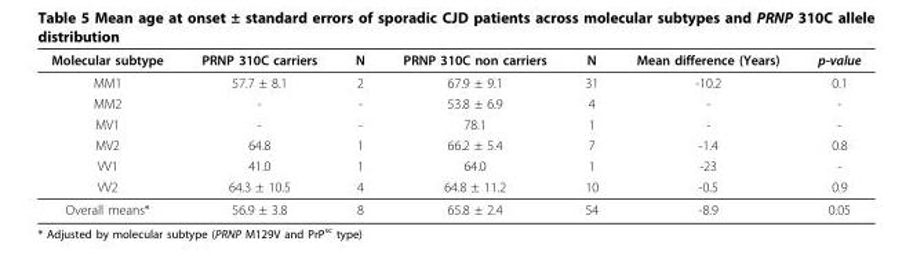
<table><thead><tr><td>Molecular subtype</td><td>PRNP 310C carriers</td><td>N</td><td>PRNP 310C non carriers</td><td>N</td><td>Mean difference (Years)</td><td>p-value</td></tr></thead><tbody><tr><td>MM1</td><td>57.7 ± 8.1</td><td>2</td><td>67.9 ± 9.1</td><td>31</td><td>-10.2</td><td>0.1</td></tr><tr><td>MM2</td><td>-</td><td>-</td><td>53.8 ± 6.9</td><td>4</td><td>-</td><td>-</td></tr><tr><td>MV1</td><td>-</td><td>-</td><td>78.1</td><td>1</td><td>-</td><td>-</td></tr><tr><td>MV2</td><td>64.8</td><td>1</td><td>66.2 ± 5.4</td><td>7</td><td>-1.4</td><td>0.8</td></tr><tr><td>VV1</td><td>41.0</td><td>1</td><td>64.0</td><td>1</td><td>-23</td><td>-</td></tr><tr><td>VV2</td><td>64.3 ± 10.5</td><td>4</td><td>64.8 ± 11.2</td><td>10</td><td>-0.5</td><td>0.9</td></tr><tr><td>Overall means*</td><td>56.9 ± 3.8</td><td>8</td><td>65.8 ± 2.4</td><td>54</td><td>-8.9</td><td>0.05</td></tr></tbody></table>